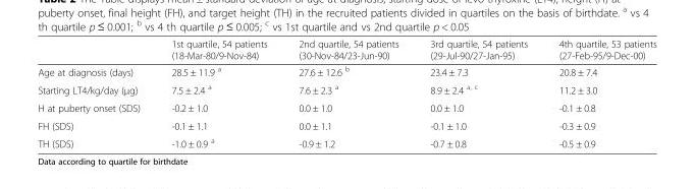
<table><thead><tr><td></td><td>1st quartile, 54 patients (18-Mar-80/9-Nov-84)</td><td>2nd quartile, 54 patients (30-Nov-84/23-Jun-90)</td><td>3rd quartile, 54 patients (29-Jul-90/27-Jan-95)</td><td>4th quartile, 53 patients (27-Feb-95/9-Dec-00)</td></tr></thead><tbody><tr><td>Age at diagnosis (days)</td><td>28.5 ± 11.9 <sup>a</sup></td><td>27.6 ± 12.6 <sup>b</sup></td><td>23.4 ± 7.3</td><td>20.8 ± 7.4</td></tr><tr><td>Starting LT4/kg/day (μg)</td><td>7.5 ± 2.4 <sup>a</sup></td><td>7.6 ± 2.3 <sup>a</sup></td><td>8.9 ± 2.4 <sup>a, c</sup></td><td>11.2 ± 3.0</td></tr><tr><td>H at puberty onset (SDS)</td><td>-0.2 ± 1.0</td><td>0.0 ± 1.0</td><td>0.0 ± 1.0</td><td>-0.1 ± 0.8</td></tr><tr><td>FH (SDS)</td><td>-0.1 ± 1.1</td><td>0.0 ± 1.1</td><td>-0.1 ± 1.0</td><td>-0.3 ± 0.9</td></tr><tr><td>TH (SDS)</td><td>-1.0 ± 0.9 <sup>a</sup></td><td>-0.9 ± 1.2</td><td>-0.7 ± 0.8</td><td>-0.5 ± 0.9</td></tr></tbody></table>